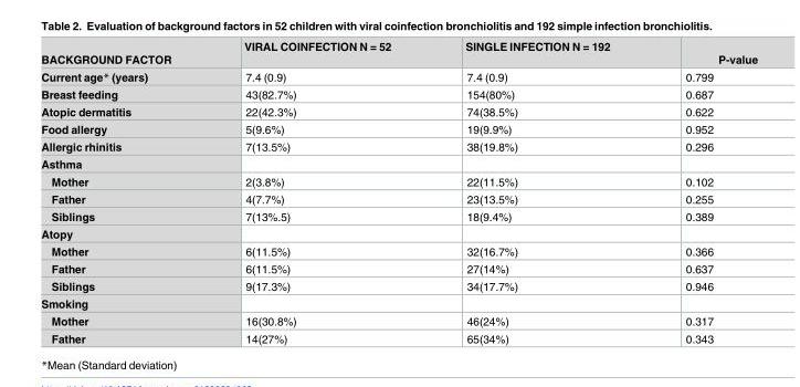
<table><thead><tr><td>BACKGROUND FACTOR</td><td>VIRAL COINFECTION N = 52</td><td>SINGLE INFECTION N = 192</td><td>P-value</td></tr></thead><tbody><tr><td>Current age* (years)</td><td>7.4 (0.9)</td><td>7.4 (0.9)</td><td>0.799</td></tr><tr><td>Breast feeding</td><td>43(82.7%)</td><td>154(80%)</td><td>0.687</td></tr><tr><td>Atopic dermatitis</td><td>22(42.3%)</td><td>74(38.5%)</td><td>0.622</td></tr><tr><td>Food allergy</td><td>5(9.6%)</td><td>19(9.9%)</td><td>0.952</td></tr><tr><td>Allergic rhinitis</td><td>7(13.5%)</td><td>38(19.8%)</td><td>0.296</td></tr><tr><td colspan="4">Asthma</td></tr><tr><td>Mother</td><td>2(3.8%)</td><td>22(11.5%)</td><td>0.102</td></tr><tr><td>Father</td><td>4(7.7%)</td><td>23(13.5%)</td><td>0.255</td></tr><tr><td>Siblings</td><td>7(13%.5)</td><td>18(9.4%)</td><td>0.389</td></tr><tr><td colspan="4">Atopy</td></tr><tr><td>Mother</td><td>6(11.5%)</td><td>32(16.7%)</td><td>0.366</td></tr><tr><td>Father</td><td>6(11.5%)</td><td>27(14%)</td><td>0.637</td></tr><tr><td>Siblings</td><td>9(17.3%)</td><td>34(17.7%)</td><td>0.946</td></tr><tr><td colspan="4">Smoking</td></tr><tr><td>Mother</td><td>16(30.8%)</td><td>46(24%)</td><td>0.317</td></tr><tr><td>Father</td><td>14(27%)</td><td>65(34%)</td><td>0.343</td></tr></tbody></table>